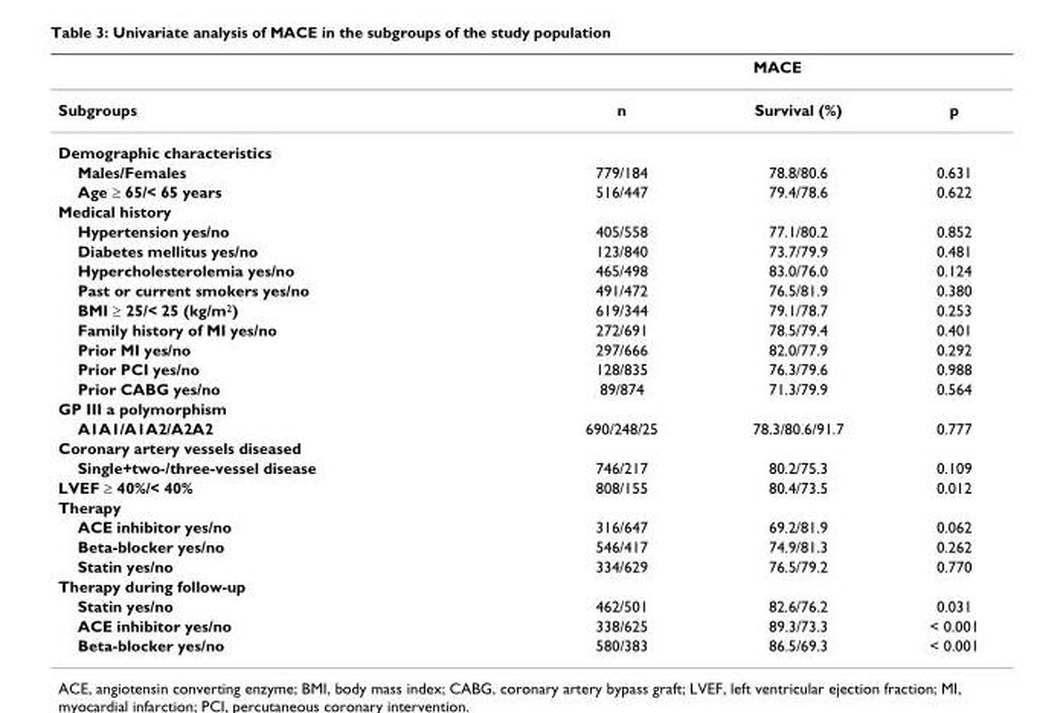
<table><thead><tr><td rowspan="2">Subgroups</td><td colspan="3">MACE</td></tr><tr><td>n</td><td>Survival (%)</td><td>p</td></tr></thead><tbody><tr><td colspan="4">Demographic characteristics</td></tr><tr><td>Males/Females</td><td>779/184</td><td>78.8/80.6</td><td>0.631</td></tr><tr><td>Age ≥ 65/&lt; 65 years</td><td>516/447</td><td>79.4/78.6</td><td>0.622</td></tr><tr><td colspan="4">Medical history</td></tr><tr><td>Hypertension yes/no</td><td>405/558</td><td>77.1/80.2</td><td>0.852</td></tr><tr><td>Diabetes mellitus yes/no</td><td>123/840</td><td>73.7/79.9</td><td>0.481</td></tr><tr><td>Hypercholesterolemia yes/no</td><td>465/498</td><td>83.0/76.0</td><td>0.124</td></tr><tr><td>Past or current smokers yes/no</td><td>491/472</td><td>76.5/81.9</td><td>0.380</td></tr><tr><td>BMI ≥ 25/&lt; 25 (kg/m<sup>2</sup>)</td><td>619/344</td><td>79.1/78.7</td><td>0.253</td></tr><tr><td>Family history of MI yes/no</td><td>272/691</td><td>78.5/79.4</td><td>0.401</td></tr><tr><td>Prior MI yes/no</td><td>297/666</td><td>82.0/77.9</td><td>0.292</td></tr><tr><td>Prior PCI yes/no</td><td>128/835</td><td>76.3/79.6</td><td>0.988</td></tr><tr><td>Prior CABG yes/no</td><td>89/874</td><td>71.3/79.9</td><td>0.564</td></tr><tr><td colspan="4">GP III a polymorphism</td></tr><tr><td>A1A1/A1A2/A2A2</td><td>690/248/25</td><td>78.3/80.6/91.7</td><td>0.777</td></tr><tr><td colspan="4">Coronary artery vessels diseased</td></tr><tr><td>Single+two-/three-vessel disease</td><td>746/217</td><td>80.2/75.3</td><td>0.109</td></tr><tr><td>LVEF ≥ 40%/&lt; 40%</td><td>808/155</td><td>80.4/73.5</td><td>0.012</td></tr><tr><td colspan="4">Therapy</td></tr><tr><td>ACE inhibitor yes/no</td><td>316/647</td><td>69.2/81.9</td><td>0.062</td></tr><tr><td>Beta-blocker yes/no</td><td>546/417</td><td>74.9/81.3</td><td>0.262</td></tr><tr><td>Statin yes/no</td><td>334/629</td><td>76.5/79.2</td><td>0.770</td></tr><tr><td colspan="4">Therapy during follow-up</td></tr><tr><td>Statin yes/no</td><td>462/501</td><td>82.6/76.2</td><td>0.031</td></tr><tr><td>ACE inhibitor yes/no</td><td>338/625</td><td>89.3/73.3</td><td>&lt; 0.001</td></tr><tr><td>Beta-blocker yes/no</td><td>580/383</td><td>86.5/69.3</td><td>&lt; 0.001</td></tr></tbody></table>